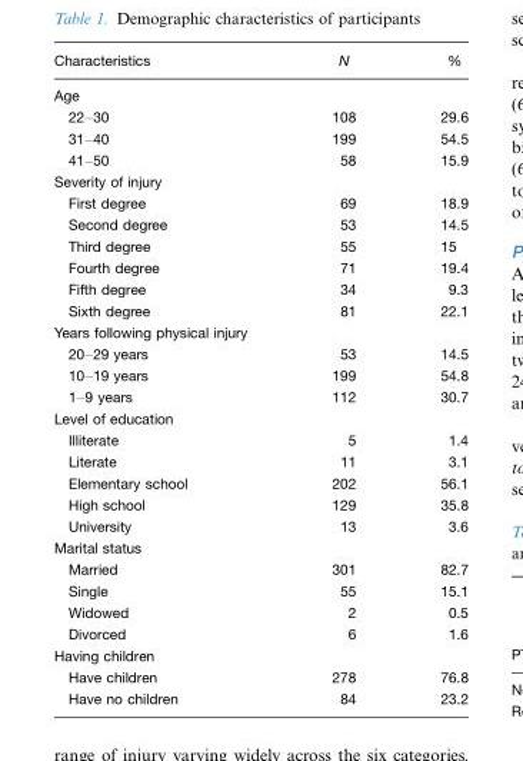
<table><thead><tr><td>Characteristics</td><td>N</td><td>%</td></tr></thead><tbody><tr><td colspan="3">Age</td></tr><tr><td>22–30</td><td>108</td><td>29.6</td></tr><tr><td>31–40</td><td>199</td><td>54.5</td></tr><tr><td>41–50</td><td>58</td><td>15.9</td></tr><tr><td colspan="3">Severity of injury</td></tr><tr><td>First degree</td><td>69</td><td>18.9</td></tr><tr><td>Second degree</td><td>53</td><td>14.5</td></tr><tr><td>Third degree</td><td>55</td><td>15</td></tr><tr><td>Fourth degree</td><td>71</td><td>19.4</td></tr><tr><td>Fifth degree</td><td>34</td><td>9.3</td></tr><tr><td>Sixth degree</td><td>81</td><td>22.1</td></tr><tr><td colspan="3">Years following physical injury</td></tr><tr><td>20–29 years</td><td>53</td><td>14.5</td></tr><tr><td>10–19 years</td><td>199</td><td>54.8</td></tr><tr><td>1–9 years</td><td>112</td><td>30.7</td></tr><tr><td colspan="3">Level of education</td></tr><tr><td>Illiterate</td><td>5</td><td>1.4</td></tr><tr><td>Literate</td><td>11</td><td>3.1</td></tr><tr><td>Elementary school</td><td>202</td><td>56.1</td></tr><tr><td>High school</td><td>129</td><td>35.8</td></tr><tr><td>University</td><td>13</td><td>3.6</td></tr><tr><td colspan="3">Marital status</td></tr><tr><td>Married</td><td>301</td><td>82.7</td></tr><tr><td>Single</td><td>55</td><td>15.1</td></tr><tr><td>Widowed</td><td>2</td><td>0.5</td></tr><tr><td>Divorced</td><td>6</td><td>1.6</td></tr><tr><td colspan="3">Having children</td></tr><tr><td>Have children</td><td>278</td><td>76.8</td></tr><tr><td>Have no children</td><td>84</td><td>23.2</td></tr></tbody></table>